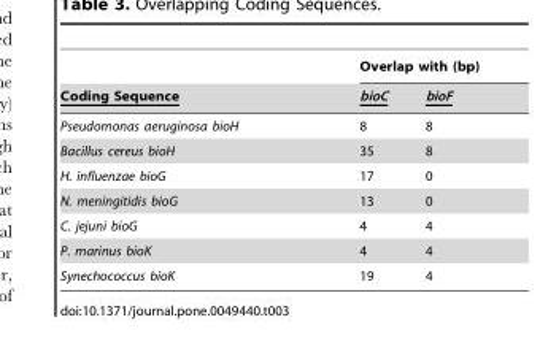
<table><thead><tr><td rowspan="2">Coding Sequence</td><td colspan="2">Overlap with (bp)</td></tr><tr><td>bioC</td><td>bioF</td></tr></thead><tbody><tr><td>Pseudomonas aeruginosa bioH</td><td>8</td><td>8</td></tr><tr><td>Bacillus cereus bioH</td><td>35</td><td>8</td></tr><tr><td>H. influenzae bioG</td><td>17</td><td>0</td></tr><tr><td>N. meningitidis bioG</td><td>13</td><td>0</td></tr><tr><td>C. jejuni bioG</td><td>4</td><td>4</td></tr><tr><td>P. marinus bioK</td><td>4</td><td>4</td></tr><tr><td>Synechococcus bioK</td><td>19</td><td>4</td></tr></tbody></table>